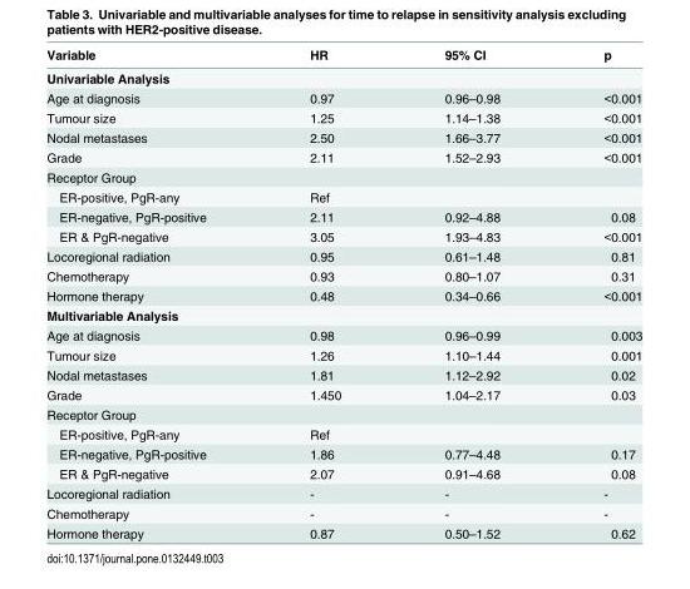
<table><thead><tr><td>Variable</td><td>HR</td><td>95% CI</td><td>p</td></tr></thead><tbody><tr><td colspan="4">Univariable Analysis</td></tr><tr><td>Age at diagnosis</td><td>0.97</td><td>0.96–0.98</td><td>&lt;0.001</td></tr><tr><td>Tumour size</td><td>1.25</td><td>1.14–1.38</td><td>&lt;0.001</td></tr><tr><td>Nodal metastases</td><td>2.50</td><td>1.66–3.77</td><td>&lt;0.001</td></tr><tr><td>Grade</td><td>2.11</td><td>1.52–2.93</td><td>&lt;0.001</td></tr><tr><td colspan="4">Receptor Group</td></tr><tr><td>ER-positive, PgR-any</td><td>Ref</td><td></td><td></td></tr><tr><td>ER-negative, PgR-positive</td><td>2.11</td><td>0.92–4.88</td><td>0.08</td></tr><tr><td>ER &amp; PgR-negative</td><td>3.05</td><td>1.93–4.83</td><td>&lt;0.001</td></tr><tr><td>Locoregional radiation</td><td>0.95</td><td>0.61–1.48</td><td>0.81</td></tr><tr><td>Chemotherapy</td><td>0.93</td><td>0.80–1.07</td><td>0.31</td></tr><tr><td>Hormone therapy</td><td>0.48</td><td>0.34–0.66</td><td>&lt;0.001</td></tr><tr><td colspan="4">Multivariable Analysis</td></tr><tr><td>Age at diagnosis</td><td>0.98</td><td>0.96–0.99</td><td>0.003</td></tr><tr><td>Tumour size</td><td>1.26</td><td>1.10–1.44</td><td>0.001</td></tr><tr><td>Nodal metastases</td><td>1.81</td><td>1.12–2.92</td><td>0.02</td></tr><tr><td>Grade</td><td>1.450</td><td>1.04–2.17</td><td>0.03</td></tr><tr><td colspan="4">Receptor Group</td></tr><tr><td>ER-positive, PgR-any</td><td>Ref</td><td></td><td></td></tr><tr><td>ER-negative, PgR-positive</td><td>1.86</td><td>0.77–4.48</td><td>0.17</td></tr><tr><td>ER &amp; PgR-negative</td><td>2.07</td><td>0.91–4.68</td><td>0.08</td></tr><tr><td>Locoregional radiation</td><td>-</td><td>-</td><td>-</td></tr><tr><td>Chemotherapy</td><td>-</td><td>-</td><td>-</td></tr><tr><td>Hormone therapy</td><td>0.87</td><td>0.50–1.52</td><td>0.62</td></tr></tbody></table>